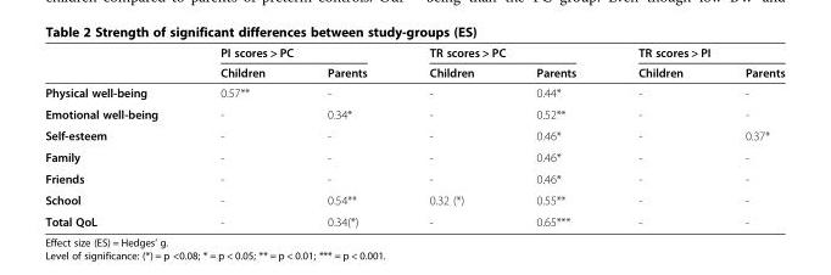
<table><thead><tr><td rowspan="2"></td><td colspan="2">PI scores &gt; PC</td><td colspan="2">TR scores &gt; PC</td><td colspan="2">TR scores &gt; PI</td></tr><tr><td>Children</td><td>Parents</td><td>Children</td><td>Parents</td><td>Children</td><td>Parents</td></tr></thead><tbody><tr><td>Physical well-being</td><td>0.57**</td><td>-</td><td>-</td><td>0.44*</td><td>-</td><td>-</td></tr><tr><td>Emotional well-being</td><td>-</td><td>0.34*</td><td>-</td><td>0.52**</td><td>-</td><td>-</td></tr><tr><td>Self-esteem</td><td>-</td><td>-</td><td>-</td><td>0.46*</td><td>-</td><td>0.37*</td></tr><tr><td>Family</td><td>-</td><td>-</td><td>-</td><td>0.46*</td><td>-</td><td>-</td></tr><tr><td>Friends</td><td>-</td><td>-</td><td>-</td><td>0.46*</td><td>-</td><td>-</td></tr><tr><td>School</td><td>-</td><td>0.54**</td><td>0.32 (*)</td><td>0.55**</td><td>-</td><td>-</td></tr><tr><td>Total QoL</td><td>-</td><td>0.34(*)</td><td>-</td><td>0.65***</td><td>-</td><td>-</td></tr></tbody></table>